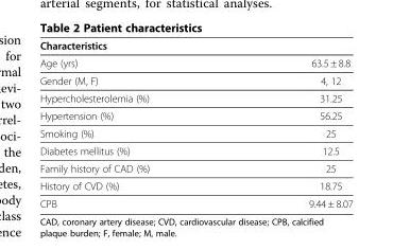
<table><thead><tr><td>Characteristics</td><td></td></tr></thead><tbody><tr><td>Age (yrs)</td><td>63.5 ± 8.8</td></tr><tr><td>Gender (M, F)</td><td>4, 12</td></tr><tr><td>Hypercholesterolemia (%)</td><td>31.25</td></tr><tr><td>Hypertension (%)</td><td>56.25</td></tr><tr><td>Smoking (%)</td><td>25</td></tr><tr><td>Diabetes mellitus (%)</td><td>12.5</td></tr><tr><td>Family history of CAD (%)</td><td>25</td></tr><tr><td>History of CVD (%)</td><td>18.75</td></tr><tr><td>CPB</td><td>9.44 ± 8.07</td></tr></tbody></table>